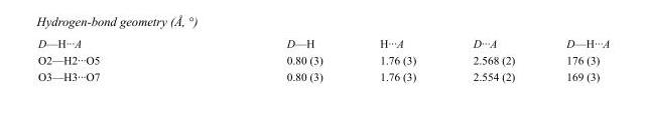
<table><tbody><tr><td>D—H···A</td><td>D—H</td><td>H···A</td><td>D···A</td><td>D—H···A</td></tr><tr><td>O2—H2···O5</td><td>0.80 (3)</td><td>1.76 (3)</td><td>2.568 (2)</td><td>176 (3)</td></tr><tr><td>O3—H3···O7</td><td>0.80 (3)</td><td>1.76 (3)</td><td>2.554 (2)</td><td>169 (3)</td></tr></tbody></table>